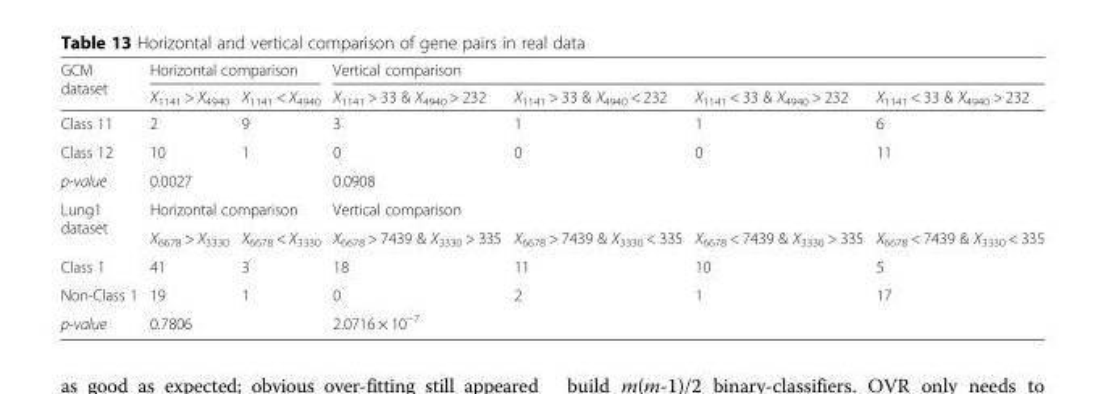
<table><thead><tr><td rowspan="2">GCM dataset</td><td colspan="2">Horizontal comparison</td><td colspan="4">Vertical comparison</td></tr><tr><td>X<sub>1141</sub> &gt; X<sub>4940</sub></td><td>X<sub>1141</sub> &lt; X<sub>4940</sub></td><td>X<sub>1141</sub> &gt; 33 &amp; X<sub>4940</sub> &gt; 232</td><td>X<sub>1141</sub> &gt; 33 &amp; X<sub>4940</sub> &lt; 232</td><td>X<sub>1141</sub> &lt; 33 &amp; X<sub>4940</sub> &gt; 232</td><td>X<sub>1141</sub> &lt; 33 &amp; X<sub>4940</sub> &gt; 232</td></tr></thead><tbody><tr><td>Class 11</td><td>2</td><td>9</td><td>3</td><td>1</td><td>1</td><td>6</td></tr><tr><td>Class 12</td><td>10</td><td>1</td><td>0</td><td>0</td><td>0</td><td>11</td></tr><tr><td>p-value</td><td colspan="2">0.0027</td><td colspan="4">0.0908</td></tr><tr><td rowspan="2">Lung1 dataset</td><td colspan="2">Horizontal comparison</td><td colspan="4">Vertical comparison</td></tr><tr><td>X<sub>6678</sub> &gt; X<sub>3330</sub></td><td>X<sub>6678</sub> &lt; X<sub>3330</sub></td><td>X<sub>6678</sub> &gt; 7439 &amp; X<sub>3330</sub> &gt; 335</td><td>X<sub>6678</sub> &gt; 7439 &amp; X<sub>3330</sub> &lt; 335</td><td>X<sub>6678</sub> &lt; 7439 &amp; X<sub>3330</sub> &gt; 335</td><td>X<sub>6678</sub> &lt; 7439 &amp; X<sub>3330</sub> &lt; 335</td></tr><tr><td>Class 1</td><td>41</td><td>3</td><td>18</td><td>11</td><td>10</td><td>5</td></tr><tr><td>Non-Class 1</td><td>19</td><td>1</td><td>0</td><td>2</td><td>1</td><td>17</td></tr><tr><td>p-value</td><td colspan="2">0.7806</td><td colspan="4">2.0716 × 10<sup>−7</sup></td></tr></tbody></table>